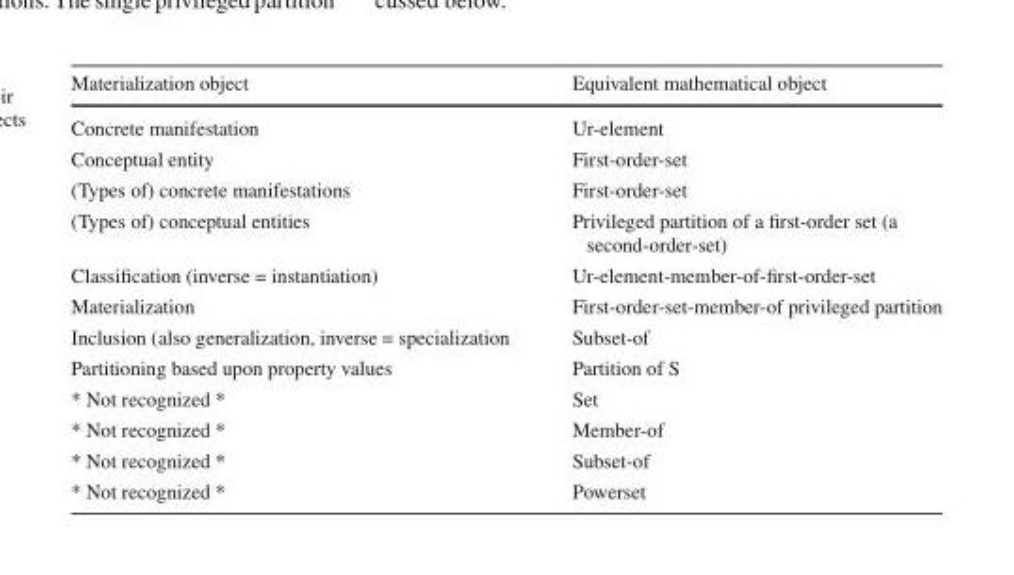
<table><thead><tr><td>Materialization object</td><td>Equivalent mathematical object</td></tr></thead><tbody><tr><td>Concrete manifestation</td><td>Ur-element</td></tr><tr><td>Conceptual entity</td><td>First-order-set</td></tr><tr><td>(Types of) concrete manifestations</td><td>First-order-set</td></tr><tr><td>(Types of) conceptual entities</td><td>Privileged partition of a first-order set (a second-order-set)</td></tr><tr><td>Classification (inverse = instantiation)</td><td>Ur-element-member-of-first-order-set</td></tr><tr><td>Materialization</td><td>First-order-set-member-of privileged partition</td></tr><tr><td>Inclusion (also generalization, inverse = specialization</td><td>Subset-of</td></tr><tr><td>Partitioning based upon property values</td><td>Partition of S</td></tr><tr><td>* Not recognized *</td><td>Set</td></tr><tr><td>* Not recognized *</td><td>Member-of</td></tr><tr><td>* Not recognized *</td><td>Subset-of</td></tr><tr><td>* Not recognized *</td><td>Powerset</td></tr></tbody></table>